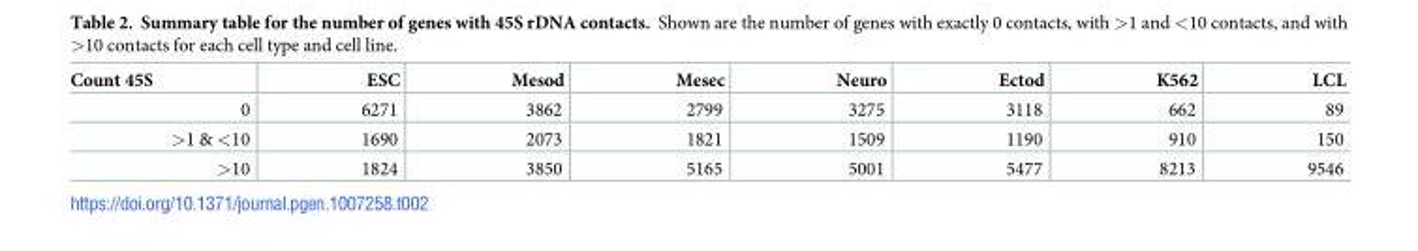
<table><thead><tr><td>Count 45S</td><td>ESC</td><td>Mesod</td><td>Mesec</td><td>Neuro</td><td>Ectod</td><td>K562</td><td>LCL</td></tr></thead><tbody><tr><td>0</td><td>6271</td><td>3862</td><td>2799</td><td>3275</td><td>3118</td><td>662</td><td>89</td></tr><tr><td>&gt;1 &amp; &lt;10</td><td>1690</td><td>2073</td><td>1821</td><td>1509</td><td>1190</td><td>910</td><td>150</td></tr><tr><td>&gt;10</td><td>1824</td><td>3850</td><td>5165</td><td>5001</td><td>5477</td><td>8213</td><td>9546</td></tr></tbody></table>